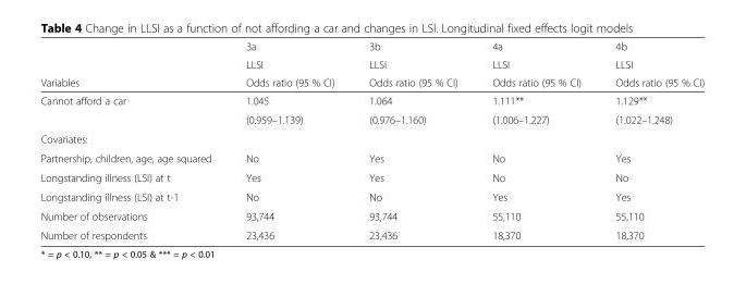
<table><thead><tr><td rowspan="3">Variables</td><td rowspan="3">3a LLSI Odds ratio (95 % CI)</td><td rowspan="3">3b LLSI Odds ratio (95 % CI)</td><td rowspan="3">4a LLSI Odds ratio (95 % CI)</td><td rowspan="3">4b LLSI Odds ratio (95 % CI)</td></tr><tr></tr><tr></tr></thead><tbody><tr><td rowspan="2">Cannot afford a car</td><td>1.045</td><td>1.064</td><td>1.111**</td><td>1.129**</td></tr><tr><td>(0.959–1.139)</td><td>(0.976–1.160)</td><td>(1.006–1.227)</td><td>(1.022–1.248)</td></tr><tr><td colspan="5">Covariates:</td></tr><tr><td>Partnership, children, age, age squared</td><td>No</td><td>Yes</td><td>No</td><td>Yes</td></tr><tr><td>Longstanding illness (LSI) at t</td><td>Yes</td><td>Yes</td><td>No</td><td>No</td></tr><tr><td>Longstanding illness (LSI) at t-1</td><td>No</td><td>No</td><td>Yes</td><td>Yes</td></tr><tr><td>Number of observations</td><td>93,744</td><td>93,744</td><td>55,110</td><td>55,110</td></tr><tr><td>Number of respondents</td><td>23,436</td><td>23,436</td><td>18,370</td><td>18,370</td></tr></tbody></table>